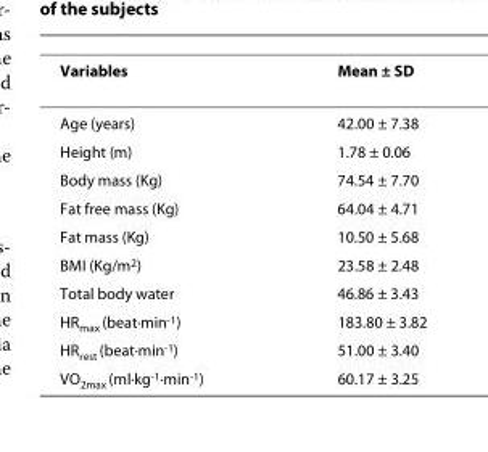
<table><tbody><tr><td>Variables</td><td>Mean ± SD</td></tr><tr><td>Age (years)</td><td>42.00 ± 7.38</td></tr><tr><td>Height (m)</td><td>1.78 ± 0.06</td></tr><tr><td>Body mass (Kg)</td><td>74.54 ± 7.70</td></tr><tr><td>Fat free mass (Kg)</td><td>64.04 ± 4.71</td></tr><tr><td>Fat mass (Kg)</td><td>10.50 ± 5.68</td></tr><tr><td>BMI (Kg/m2)</td><td>23.58 ± 2.48</td></tr><tr><td>Total body water</td><td>46.86 ± 3.43</td></tr><tr><td>HRmax (beat·min-1)</td><td>183.80 ± 3.82</td></tr><tr><td>HRrest (beat·min-1)</td><td>51.00 ± 3.40</td></tr><tr><td>VO2max (ml·kg-1·min-1)</td><td>60.17 ± 3.25</td></tr></tbody></table>